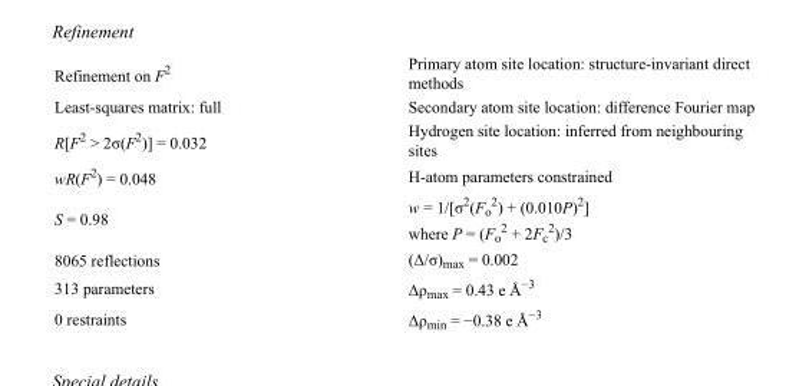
<table><tbody><tr><td>Refinement on F<sup>2</sup></td><td>Primary atom site location: structure-invariant direct methods</td></tr><tr><td>Least-squares matrix: full</td><td>Secondary atom site location: difference Fourier map</td></tr><tr><td>R[F<sup>2</sup> &gt; 2σ(F<sup>2</sup>)] = 0.032</td><td>Hydrogen site location: inferred from neighbouring sites</td></tr><tr><td>wR(F<sup>2</sup>) = 0.048</td><td>H-atom parameters constrained</td></tr><tr><td>S = 0.98</td><td>w = 1/[σ<sup>2</sup>(F<sub>o</sub> <sup>2</sup>) + (0.010P)<sup>2</sup>] where P = (F<sub>o</sub> <sup>2</sup> + 2F<sub>c</sub> <sup>2</sup>)/3</td></tr><tr><td>8065 reflections</td><td>(Δ/σ)<sub>max</sub> = 0.002</td></tr><tr><td>313 parameters</td><td>Δρ<sub>max</sub> = 0.43 e Å<sup>−3</sup></td></tr><tr><td>0 restraints</td><td>Δρ<sub>min</sub> = −0.38 e Å<sup>−3</sup></td></tr></tbody></table>